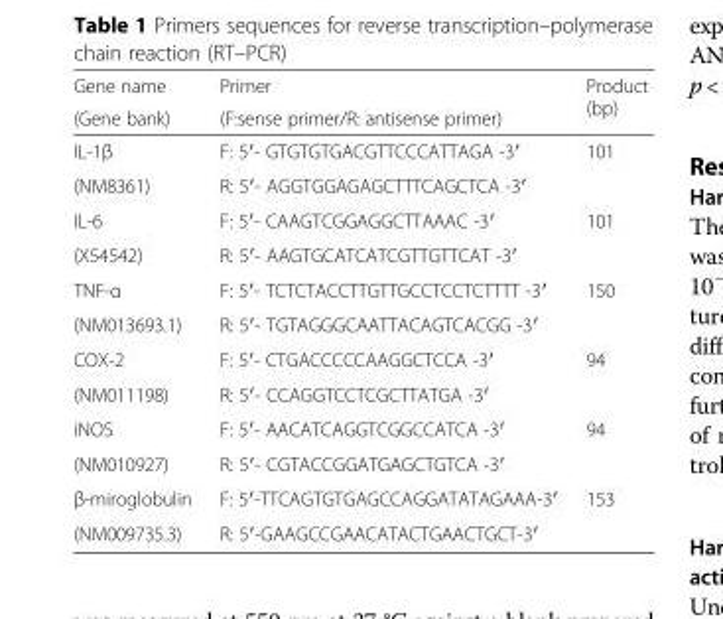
<table><thead><tr><td rowspan="2">Gene name (Gene bank)</td><td rowspan="2">Primer (F:sense primer/R: antisense primer)</td><td rowspan="2">Product (bp)</td></tr><tr></tr></thead><tbody><tr><td>IL-1β</td><td>F: 5′- GTGTGTGACGTTCCCATTAGA -3′</td><td rowspan="2">101</td></tr><tr><td>(NM8361)</td><td>R: 5′- AGGTGGAGAGCTTTCAGCTCA -3′</td></tr><tr><td>IL-6</td><td>F: 5′- CAAGTCGGAGGCTTAAAC -3′</td><td rowspan="2">101</td></tr><tr><td>(X54542)</td><td>R: 5′- AAGTGCATCATCGTTGTTCAT -3′</td></tr><tr><td>TNF-α</td><td>F: 5′- TCTCTACCTTGTTGCCTCCTCTTTT -3′</td><td rowspan="2">150</td></tr><tr><td>(NM013693.1)</td><td>R: 5′- TGTAGGGCAATTACAGTCACGG -3′</td></tr><tr><td>COX-2</td><td>F: 5′- CTGACCCCCAAGGCTCCA -3′</td><td rowspan="2">94</td></tr><tr><td>(NM011198)</td><td>R: 5′- CCAGGTCCTCGCTTATGA -3′</td></tr><tr><td>iNOS</td><td>F: 5′- AACATCAGGTCGGCCATCA -3′</td><td rowspan="2">94</td></tr><tr><td>(NM010927)</td><td>R: 5′- CGTACCGGATGAGCTGTCA -3′</td></tr><tr><td>β-miroglobulin</td><td>F: 5′-TTCAGTGTGAGCCAGGATATAGAAA-3′</td><td rowspan="2">153</td></tr><tr><td>(NM009735.3)</td><td>R: 5′-GAAGCCGAACATACTGAACTGCT-3′</td></tr></tbody></table>